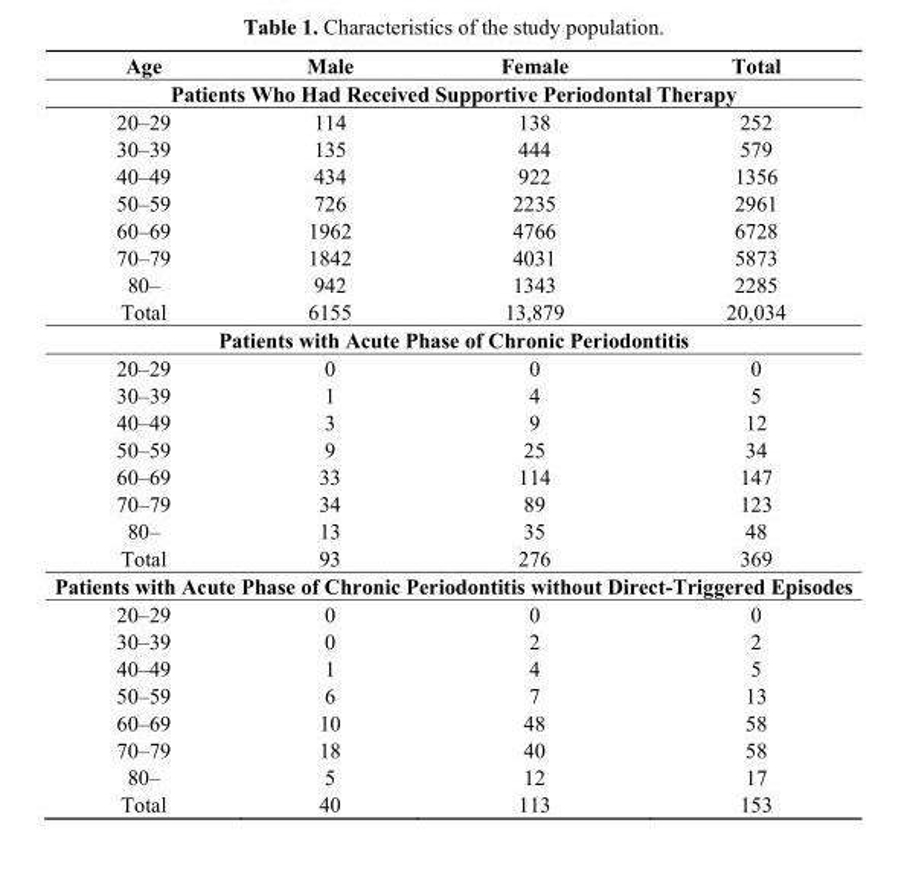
<table><thead><tr><td>Age</td><td>Male</td><td>Female</td><td>Total</td></tr></thead><tbody><tr><td colspan="4">Patients Who Had Received Supportive Periodontal Therapy</td></tr><tr><td>20–29</td><td>114</td><td>138</td><td>252</td></tr><tr><td>30–39</td><td>135</td><td>444</td><td>579</td></tr><tr><td>40–49</td><td>434</td><td>922</td><td>1356</td></tr><tr><td>50–59</td><td>726</td><td>2235</td><td>2961</td></tr><tr><td>60–69</td><td>1962</td><td>4766</td><td>6728</td></tr><tr><td>70–79</td><td>1842</td><td>4031</td><td>5873</td></tr><tr><td>80–</td><td>942</td><td>1343</td><td>2285</td></tr><tr><td>Total</td><td>6155</td><td>13,879</td><td>20,034</td></tr><tr><td colspan="4">Patients with Acute Phase of Chronic Periodontitis</td></tr><tr><td>20–29</td><td>0</td><td>0</td><td>0</td></tr><tr><td>30–39</td><td>1</td><td>4</td><td>5</td></tr><tr><td>40–49</td><td>3</td><td>9</td><td>12</td></tr><tr><td>50–59</td><td>9</td><td>25</td><td>34</td></tr><tr><td>60–69</td><td>33</td><td>114</td><td>147</td></tr><tr><td>70–79</td><td>34</td><td>89</td><td>123</td></tr><tr><td>80–</td><td>13</td><td>35</td><td>48</td></tr><tr><td>Total</td><td>93</td><td>276</td><td>369</td></tr><tr><td colspan="4">Patients with Acute Phase of Chronic Periodontitis without Direct-Triggered Episodes</td></tr><tr><td>20–29</td><td>0</td><td>0</td><td>0</td></tr><tr><td>30–39</td><td>0</td><td>2</td><td>2</td></tr><tr><td>40–49</td><td>1</td><td>4</td><td>5</td></tr><tr><td>50–59</td><td>6</td><td>7</td><td>13</td></tr><tr><td>60–69</td><td>10</td><td>48</td><td>58</td></tr><tr><td>70–79</td><td>18</td><td>40</td><td>58</td></tr><tr><td>80–</td><td>5</td><td>12</td><td>17</td></tr><tr><td>Total</td><td>40</td><td>113</td><td>153</td></tr></tbody></table>